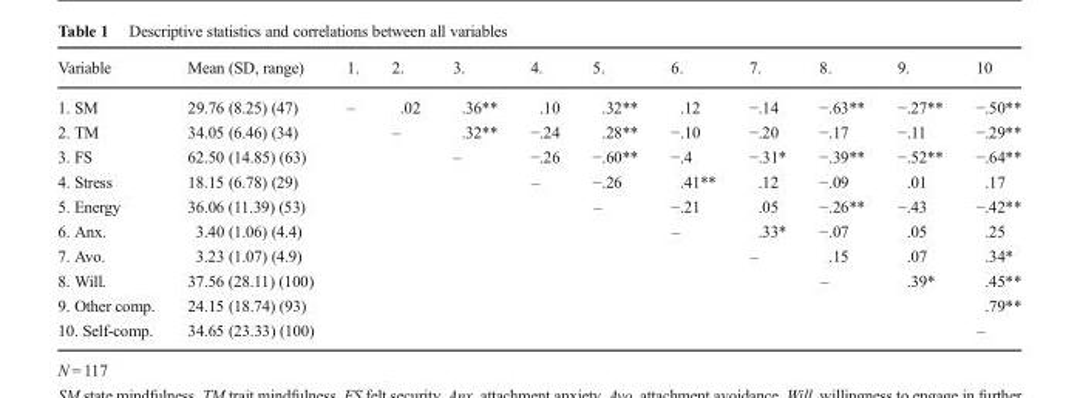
<table><thead><tr><td>Variable</td><td>Mean (SD, range)</td><td>1.</td><td>2.</td><td>3.</td><td>4.</td><td>5.</td><td>6.</td><td>7.</td><td>8.</td><td>9.</td><td>10</td></tr></thead><tbody><tr><td>1. SM</td><td>29.76 (8.25) (47)</td><td>–</td><td>.02</td><td>.36**</td><td>.10</td><td>.32**</td><td>.12</td><td>−.14</td><td>−.63**</td><td>−.27**</td><td>−.50**</td></tr><tr><td>2. TM</td><td>34.05 (6.46) (34)</td><td></td><td>–</td><td>.32**</td><td>−.24</td><td>.28**</td><td>−.10</td><td>−.20</td><td>−.17</td><td>−.11</td><td>−.29**</td></tr><tr><td>3. FS</td><td>62.50 (14.85) (63)</td><td></td><td></td><td>–</td><td>−.26</td><td>−.60**</td><td>−.4</td><td>−.31*</td><td>−.39**</td><td>−.52**</td><td>−.64**</td></tr><tr><td>4. Stress</td><td>18.15 (6.78) (29)</td><td></td><td></td><td></td><td>–</td><td>−.26</td><td>.41**</td><td>.12</td><td>−.09</td><td>.01</td><td>.17</td></tr><tr><td>5. Energy</td><td>36.06 (11.39) (53)</td><td></td><td></td><td></td><td></td><td>–</td><td>−.21</td><td>.05</td><td>−.26**</td><td>−.43</td><td>−.42**</td></tr><tr><td>6. Anx.</td><td>3.40 (1.06) (4.4)</td><td></td><td></td><td></td><td></td><td></td><td>–</td><td>.33*</td><td>−.07</td><td>.05</td><td>.25</td></tr><tr><td>7. Avo.</td><td>3.23 (1.07) (4.9)</td><td></td><td></td><td></td><td></td><td></td><td></td><td>–</td><td>.15</td><td>.07</td><td>.34*</td></tr><tr><td>8. Will.</td><td>37.56 (28.11) (100)</td><td></td><td></td><td></td><td></td><td></td><td></td><td></td><td>–</td><td>.39*</td><td>.45**</td></tr><tr><td>9. Other comp.</td><td>24.15 (18.74) (93)</td><td></td><td></td><td></td><td></td><td></td><td></td><td></td><td></td><td></td><td>.79**</td></tr><tr><td>10. Self-comp.</td><td>34.65 (23.33) (100)</td><td></td><td></td><td></td><td></td><td></td><td></td><td></td><td></td><td></td><td>–</td></tr></tbody></table>